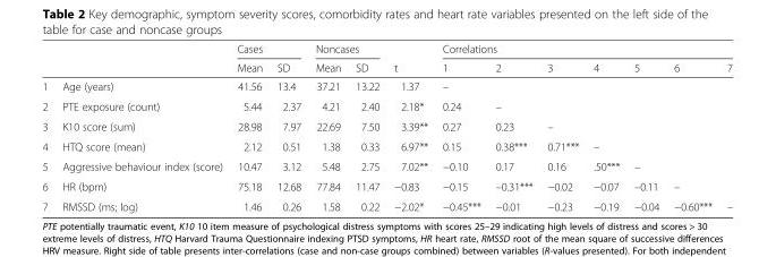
<table><thead><tr><td rowspan="2"></td><td rowspan="2"></td><td colspan="2">Cases</td><td colspan="2">Noncases</td><td rowspan="2">t</td><td colspan="7">Correlations</td></tr><tr><td>Mean</td><td>SD</td><td>Mean</td><td>SD</td><td>1</td><td>2</td><td>3</td><td>4</td><td>5</td><td>6</td><td>7</td></tr></thead><tbody><tr><td>1</td><td>Age (years)</td><td>41.56</td><td>13.4</td><td>37.21</td><td>13.22</td><td>1.37</td><td>–</td><td></td><td></td><td></td><td></td><td></td><td></td></tr><tr><td>2</td><td>PTE exposure (count)</td><td>5.44</td><td>2.37</td><td>4.21</td><td>2.40</td><td>2.18*</td><td>0.24</td><td>–</td><td></td><td></td><td></td><td></td><td></td></tr><tr><td>3</td><td>K10 score (sum)</td><td>28.98</td><td>7.97</td><td>22.69</td><td>7.50</td><td>3.39**</td><td>0.27</td><td>0.23</td><td>–</td><td></td><td></td><td></td><td></td></tr><tr><td>4</td><td>HTQ score (mean)</td><td>2.12</td><td>0.51</td><td>1.38</td><td>0.33</td><td>6.97**</td><td>0.15</td><td>0.38***</td><td>0.71***</td><td>–</td><td></td><td></td><td></td></tr><tr><td>5</td><td>Aggressive behaviour index (score)</td><td>10.47</td><td>3.12</td><td>5.48</td><td>2.75</td><td>7.02**</td><td>−0.10</td><td>0.17</td><td>0.16</td><td>.50***</td><td>–</td><td></td><td></td></tr><tr><td>6</td><td>HR (bpm)</td><td>75.18</td><td>12.68</td><td>77.84</td><td>11.47</td><td>−0.83</td><td>−0.15</td><td>–0.31***</td><td>−0.02</td><td>−0.07</td><td>–0.11</td><td>–</td><td></td></tr><tr><td>7</td><td>RMSSD (ms; log)</td><td>1.46</td><td>0.26</td><td>1.58</td><td>0.22</td><td>−2.02*</td><td>−0.45***</td><td>−0.01</td><td>−0.23</td><td>−0.19</td><td>−0.04</td><td>−0.60***</td><td>–</td></tr></tbody></table>